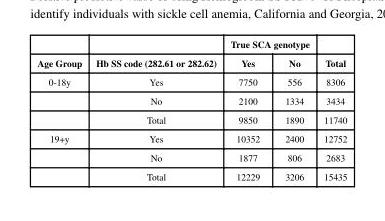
<table><thead><tr><td rowspan="2">Age Group</td><td rowspan="2">Hb SS code (282.61 or 282.62)</td><td colspan="2">True SCA genotype</td><td rowspan="2">Total</td></tr><tr><td>Yes</td><td>No</td></tr></thead><tbody><tr><td rowspan="3">0-18y</td><td>Yes</td><td>7750</td><td>556</td><td>8306</td></tr><tr><td>No</td><td>2100</td><td>1334</td><td>3434</td></tr><tr><td>Total</td><td>9850</td><td>1890</td><td>11740</td></tr><tr><td rowspan="3">19+y</td><td>Yes</td><td>10352</td><td>2400</td><td>12752</td></tr><tr><td>No</td><td>1877</td><td>806</td><td>2683</td></tr><tr><td>Total</td><td>12229</td><td>3206</td><td>15435</td></tr></tbody></table>